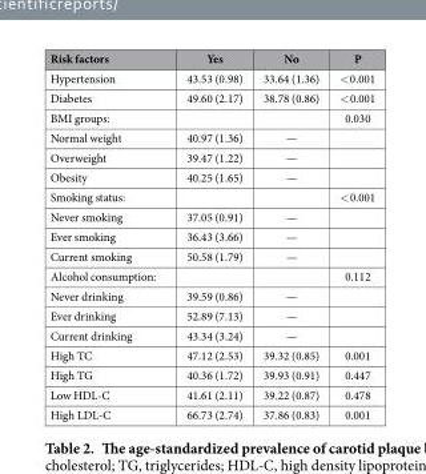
<table><thead><tr><td>Risk factors</td><td>Yes</td><td>No</td><td>P</td></tr></thead><tbody><tr><td>Hypertension</td><td>43.53 (0.98)</td><td>33.64 (1.36)</td><td>&lt; 0.001</td></tr><tr><td>Diabetes</td><td>49.60 (2.17)</td><td>38.78 (0.86)</td><td>&lt; 0.001</td></tr><tr><td>BMI groups:</td><td></td><td></td><td>0.030</td></tr><tr><td>Normal weight</td><td>40.97 (1.36)</td><td>—</td><td></td></tr><tr><td>Overweight</td><td>39.47 (1.22)</td><td>—</td><td></td></tr><tr><td>Obesity</td><td>40.25 (1.65)</td><td>—</td><td></td></tr><tr><td>Smoking status:</td><td></td><td></td><td>&lt; 0.001</td></tr><tr><td>Never smoking</td><td>37.05 (0.91)</td><td>—</td><td></td></tr><tr><td>Ever smoking</td><td>36.43 (3.66)</td><td>—</td><td></td></tr><tr><td>Current smoking</td><td>50.58 (1.79)</td><td>—</td><td></td></tr><tr><td>Alcohol consumption:</td><td></td><td></td><td>0.112</td></tr><tr><td>Never drinking</td><td>39.59 (0.86)</td><td>—</td><td></td></tr><tr><td>Ever drinking</td><td>52.89 (7.13)</td><td>—</td><td></td></tr><tr><td>Current drinking</td><td>43.34 (3.24)</td><td>—</td><td></td></tr><tr><td>High TC</td><td>47.12 (2.53)</td><td>39.32 (0.85)</td><td>0.001</td></tr><tr><td>High TG</td><td>40.36 (1.72)</td><td>39.93 (0.91)</td><td>0.447</td></tr><tr><td>Low HDL-C</td><td>41.61 (2.11)</td><td>39.22 (0.87)</td><td>0.478</td></tr><tr><td>High LDL-C</td><td>66.73 (2.74)</td><td>37.86 (0.83)</td><td>0.001</td></tr></tbody></table>